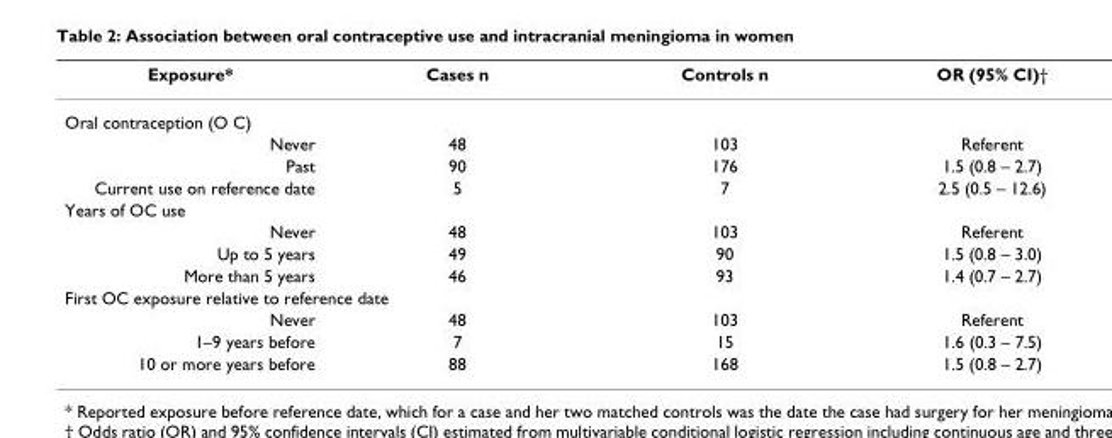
<table><thead><tr><td>Exposure*</td><td>Cases n</td><td>Controls n</td><td>OR (95% CI)†</td></tr></thead><tbody><tr><td colspan="4">Oral contraception (O C)</td></tr><tr><td>Never</td><td>48</td><td>103</td><td>Referent</td></tr><tr><td>Past</td><td>90</td><td>176</td><td>1.5 (0.8 – 2.7)</td></tr><tr><td>Current use on reference date</td><td>5</td><td>7</td><td>2.5 (0.5 – 12.6)</td></tr><tr><td colspan="4">Years of OC use</td></tr><tr><td>Never</td><td>48</td><td>103</td><td>Referent</td></tr><tr><td>Up to 5 years</td><td>49</td><td>90</td><td>1.5 (0.8 – 3.0)</td></tr><tr><td>More than 5 years</td><td>46</td><td>93</td><td>1.4 (0.7 – 2.7)</td></tr><tr><td colspan="4">First OC exposure relative to reference date</td></tr><tr><td>Never</td><td>48</td><td>103</td><td>Referent</td></tr><tr><td>1–9 years before</td><td>7</td><td>15</td><td>1.6 (0.3 – 7.5)</td></tr><tr><td>10 or more years before</td><td>88</td><td>168</td><td>1.5 (0.8 – 2.7)</td></tr></tbody></table>